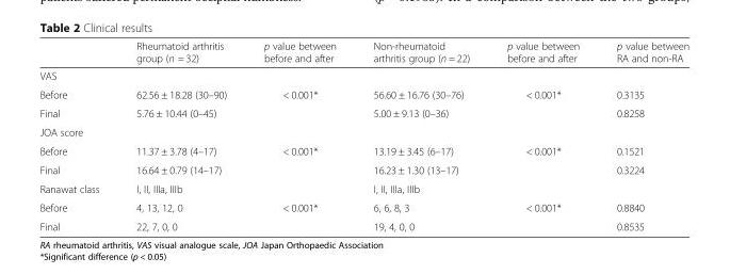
<table><thead><tr><td></td><td>Rheumatoid arthritis group (n = 32)</td><td>p value between before and after</td><td>Non-rheumatoid arthritis group (n = 22)</td><td>p value between before and after</td><td>p value between RA and non-RA</td></tr></thead><tbody><tr><td colspan="6">VAS</td></tr><tr><td>Before</td><td>62.56 ± 18.28 (30–90)</td><td rowspan="2">&lt; 0.001*</td><td>56.60 ± 16.76 (30–76)</td><td rowspan="2">&lt; 0.001*</td><td>0.3135</td></tr><tr><td>Final</td><td>5.76 ± 10.44 (0–45)</td><td>5.00 ± 9.13 (0–36)</td><td>0.8258</td></tr><tr><td colspan="6">JOA score</td></tr><tr><td>Before</td><td>11.37 ± 3.78 (4–17)</td><td rowspan="2">&lt; 0.001*</td><td>13.19 ± 3.45 (6–17)</td><td rowspan="2">&lt; 0.001*</td><td>0.1521</td></tr><tr><td>Final</td><td>16.64 ± 0.79 (14–17)</td><td>16.23 ± 1.30 (13–17)</td><td>0.3224</td></tr><tr><td>Ranawat class</td><td>I, II, IIIa, IIIb</td><td></td><td>I, II, IIIa, IIIb</td><td></td><td></td></tr><tr><td>Before</td><td>4, 13, 12, 0</td><td rowspan="2">&lt; 0.001*</td><td>6, 6, 8, 3</td><td rowspan="2">&lt; 0.001*</td><td>0.8840</td></tr><tr><td>Final</td><td>22, 7, 0, 0</td><td>19, 4, 0, 0</td><td>0.8535</td></tr></tbody></table>